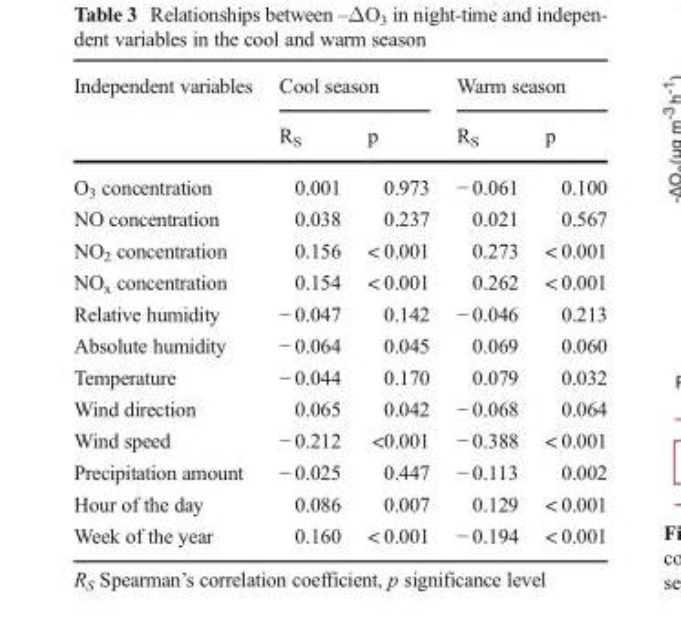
<table><thead><tr><td rowspan="2">Independent variables</td><td colspan="2">Cool season</td><td colspan="2">Warm season</td></tr><tr><td>R<sub>S</sub></td><td>p</td><td>R<sub>S</sub></td><td>p</td></tr></thead><tbody><tr><td>O<sub>3</sub> concentration</td><td>0.001</td><td>0.973</td><td>− 0.061</td><td>0.100</td></tr><tr><td>NO concentration</td><td>0.038</td><td>0.237</td><td>0.021</td><td>0.567</td></tr><tr><td>NO<sub>2</sub> concentration</td><td>0.156</td><td>&lt; 0.001</td><td>0.273</td><td>&lt; 0.001</td></tr><tr><td>NO<sub>x</sub> concentration</td><td>0.154</td><td>&lt; 0.001</td><td>0.262</td><td>&lt; 0.001</td></tr><tr><td>Relative humidity</td><td>− 0.047</td><td>0.142</td><td>− 0.046</td><td>0.213</td></tr><tr><td>Absolute humidity</td><td>− 0.064</td><td>0.045</td><td>0.069</td><td>0.060</td></tr><tr><td>Temperature</td><td>− 0.044</td><td>0.170</td><td>0.079</td><td>0.032</td></tr><tr><td>Wind direction</td><td>0.065</td><td>0.042</td><td>− 0.068</td><td>0.064</td></tr><tr><td>Wind speed</td><td>− 0.212</td><td>&lt;0.001</td><td>− 0.388</td><td>&lt; 0.001</td></tr><tr><td>Precipitation amount</td><td>− 0.025</td><td>0.447</td><td>− 0.113</td><td>0.002</td></tr><tr><td>Hour of the day</td><td>0.086</td><td>0.007</td><td>0.129</td><td>&lt; 0.001</td></tr><tr><td>Week of the year</td><td>0.160</td><td>&lt; 0.001</td><td>− 0.194</td><td>&lt; 0.001</td></tr></tbody></table>